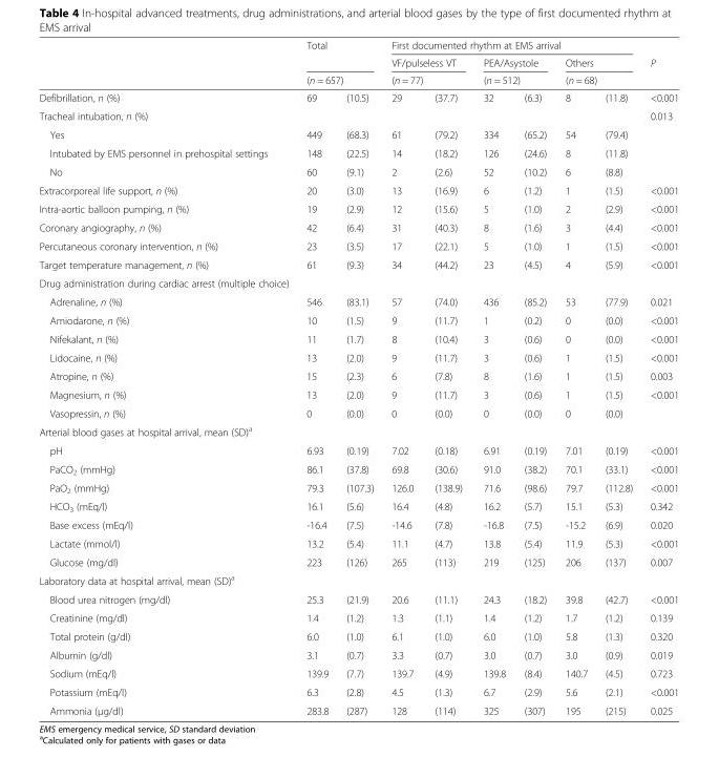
<table><thead><tr><td rowspan="4">Defibrillation, n (%)</td><td rowspan="3" colspan="2">Total (n = 657)</td><td colspan="6">First documented rhythm at EMS arrival</td><td rowspan="4">P &lt;0.001</td></tr><tr><td rowspan="2" colspan="2">VF/pulseless VT (n = 77)</td><td rowspan="2" colspan="2">PEA/Asystole (n = 512)</td><td rowspan="2" colspan="2">Others (n = 68)</td></tr><tr></tr><tr><td>69</td><td>(10.5)</td><td>29</td><td>(37.7)</td><td>32</td><td>(6.3)</td><td>8</td><td>(11.8)</td></tr></thead><tbody><tr><td>Tracheal intubation, n (%)</td><td></td><td></td><td></td><td></td><td></td><td></td><td></td><td></td><td>0.013</td></tr><tr><td>Yes</td><td>449</td><td>(68.3)</td><td>61</td><td>(79.2)</td><td>334</td><td>(65.2)</td><td>54</td><td>(79.4)</td><td></td></tr><tr><td>Intubated by EMS personnel in prehospital settings</td><td>148</td><td>(22.5)</td><td>14</td><td>(18.2)</td><td>126</td><td>(24.6)</td><td>8</td><td>(11.8)</td><td></td></tr><tr><td>No</td><td>60</td><td>(9.1)</td><td>2</td><td>(2.6)</td><td>52</td><td>(10.2)</td><td>6</td><td>(8.8)</td><td></td></tr><tr><td>Extracorporeal life support, n (%)</td><td>20</td><td>(3.0)</td><td>13</td><td>(16.9)</td><td>6</td><td>(1.2)</td><td>1</td><td>(1.5)</td><td>&lt;0.001</td></tr><tr><td>Intra-aortic balloon pumping, n (%)</td><td>19</td><td>(2.9)</td><td>12</td><td>(15.6)</td><td>5</td><td>(1.0)</td><td>2</td><td>(2.9)</td><td>&lt;0.001</td></tr><tr><td>Coronary angiography, n (%)</td><td>42</td><td>(6.4)</td><td>31</td><td>(40.3)</td><td>8</td><td>(1.6)</td><td>3</td><td>(4.4)</td><td>&lt;0.001</td></tr><tr><td>Percutaneous coronary intervention, n (%)</td><td>23</td><td>(3.5)</td><td>17</td><td>(22.1)</td><td>5</td><td>(1.0)</td><td>1</td><td>(1.5)</td><td>&lt;0.001</td></tr><tr><td>Target temperature management, n (%)</td><td>61</td><td>(9.3)</td><td>34</td><td>(44.2)</td><td>23</td><td>(4.5)</td><td>4</td><td>(5.9)</td><td>&lt;0.001</td></tr><tr><td colspan="10">Drug administration during cardiac arrest (multiple choice)</td></tr><tr><td>Adrenaline, n (%)</td><td>546</td><td>(83.1)</td><td>57</td><td>(74.0)</td><td>436</td><td>(85.2)</td><td>53</td><td>(77.9)</td><td>0.021</td></tr><tr><td>Amiodarone, n (%)</td><td>10</td><td>(1.5)</td><td>9</td><td>(11.7)</td><td>1</td><td>(0.2)</td><td>0</td><td>(0.0)</td><td>&lt;0.001</td></tr><tr><td>Nifekalant, n (%)</td><td>11</td><td>(1.7)</td><td>8</td><td>(10.4)</td><td>3</td><td>(0.6)</td><td>0</td><td>(0.0)</td><td>&lt;0.001</td></tr><tr><td>Lidocaine, n (%)</td><td>13</td><td>(2.0)</td><td>9</td><td>(11.7)</td><td>3</td><td>(0.6)</td><td>1</td><td>(1.5)</td><td>&lt;0.001</td></tr><tr><td>Atropine, n (%)</td><td>15</td><td>(2.3)</td><td>6</td><td>(7.8)</td><td>8</td><td>(1.6)</td><td>1</td><td>(1.5)</td><td>0.003</td></tr><tr><td>Magnesium, n (%)</td><td>13</td><td>(2.0)</td><td>9</td><td>(11.7)</td><td>3</td><td>(0.6)</td><td>1</td><td>(1.5)</td><td>&lt;0.001</td></tr><tr><td>Vasopressin, n (%)</td><td>0</td><td>(0.0)</td><td>0</td><td>(0.0)</td><td>0</td><td>(0.0)</td><td>0</td><td>(0.0)</td><td></td></tr><tr><td colspan="10">Arterial blood gases at hospital arrival, mean (SD)<sup>a</sup></td></tr><tr><td>pH</td><td>6.93</td><td>(0.19)</td><td>7.02</td><td>(0.18)</td><td>6.91</td><td>(0.19)</td><td>7.01</td><td>(0.19)</td><td>&lt;0.001</td></tr><tr><td>PaCO<sub>2</sub> (mmHg)</td><td>86.1</td><td>(37.8)</td><td>69.8</td><td>(30.6)</td><td>91.0</td><td>(38.2)</td><td>70.1</td><td>(33.1)</td><td>&lt;0.001</td></tr><tr><td>PaO<sub>2</sub> (mmHg)</td><td>79.3</td><td>(107.3)</td><td>126.0</td><td>(138.9)</td><td>71.6</td><td>(98.6)</td><td>79.7</td><td>(112.8)</td><td>&lt;0.001</td></tr><tr><td>HCO<sub>3</sub> (mEq/l)</td><td>16.1</td><td>(5.6)</td><td>16.4</td><td>(4.8)</td><td>16.2</td><td>(5.7)</td><td>15.1</td><td>(5.3)</td><td>0.342</td></tr><tr><td>Base excess (mEq/l)</td><td>-16.4</td><td>(7.5)</td><td>-14.6</td><td>(7.8)</td><td>-16.8</td><td>(7.5)</td><td>-15.2</td><td>(6.9)</td><td>0.020</td></tr><tr><td>Lactate (mmol/l)</td><td>13.2</td><td>(5.4)</td><td>11.1</td><td>(4.7)</td><td>13.8</td><td>(5.4)</td><td>11.9</td><td>(5.3)</td><td>&lt;0.001</td></tr><tr><td>Glucose (mg/dl)</td><td>223</td><td>(126)</td><td>265</td><td>(113)</td><td>219</td><td>(125)</td><td>206</td><td>(137)</td><td>0.007</td></tr><tr><td colspan="10">Laboratory data at hospital arrival, mean (SD)<sup>a</sup></td></tr><tr><td>Blood urea nitrogen (mg/dl)</td><td>25.3</td><td>(21.9)</td><td>20.6</td><td>(11.1)</td><td>24.3</td><td>(18.2)</td><td>39.8</td><td>(42.7)</td><td>&lt;0.001</td></tr><tr><td>Creatinine (mg/dl)</td><td>1.4</td><td>(1.2)</td><td>1.3</td><td>(1.1)</td><td>1.4</td><td>(1.2)</td><td>1.7</td><td>(1.2)</td><td>0.139</td></tr><tr><td>Total protein (g/dl)</td><td>6.0</td><td>(1.0)</td><td>6.1</td><td>(1.0)</td><td>6.0</td><td>(1.0)</td><td>5.8</td><td>(1.3)</td><td>0.320</td></tr><tr><td>Albumin (g/dl)</td><td>3.1</td><td>(0.7)</td><td>3.3</td><td>(0.7)</td><td>3.0</td><td>(0.7)</td><td>3.0</td><td>(0.9)</td><td>0.019</td></tr><tr><td>Sodium (mEq/l)</td><td>139.9</td><td>(7.7)</td><td>139.7</td><td>(4.9)</td><td>139.8</td><td>(8.4)</td><td>140.7</td><td>(4.5)</td><td>0.723</td></tr><tr><td>Potassium (mEq/l)</td><td>6.3</td><td>(2.8)</td><td>4.5</td><td>(1.3)</td><td>6.7</td><td>(2.9)</td><td>5.6</td><td>(2.1)</td><td>&lt;0.001</td></tr><tr><td>Ammonia (μg/dl)</td><td>283.8</td><td>(287)</td><td>128</td><td>(114)</td><td>325</td><td>(307)</td><td>195</td><td>(215)</td><td>0.025</td></tr></tbody></table>